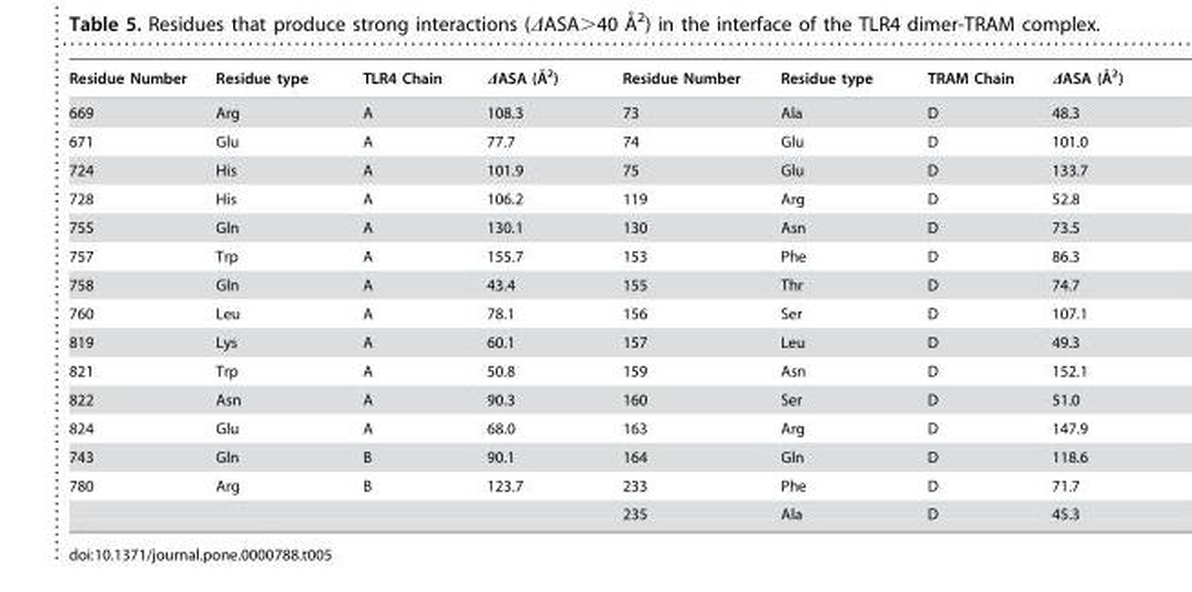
<table><thead><tr><td>Residue Number</td><td>Residue type</td><td>TLR4 Chain</td><td>DASA (A˚ 2)</td><td>Residue Number</td><td>Residue type</td><td>TRAM Chain</td><td>DASA (A˚ 2)</td></tr></thead><tbody><tr><td>669</td><td>Arg</td><td>A</td><td>108.3</td><td>73</td><td>Ala</td><td>D</td><td>48.3</td></tr><tr><td>671</td><td>Glu</td><td>A</td><td>77.7</td><td>74</td><td>Glu</td><td>D</td><td>101.0</td></tr><tr><td>724</td><td>His</td><td>A</td><td>101.9</td><td>75</td><td>Glu</td><td>D</td><td>133.7</td></tr><tr><td>728</td><td>His</td><td>A</td><td>106.2</td><td>119</td><td>Arg</td><td>D</td><td>52.8</td></tr><tr><td>755</td><td>Gln</td><td>A</td><td>130.1</td><td>130</td><td>Asn</td><td>D</td><td>73.5</td></tr><tr><td>757</td><td>Trp</td><td>A</td><td>155.7</td><td>153</td><td>Phe</td><td>D</td><td>86.3</td></tr><tr><td>758</td><td>Gln</td><td>A</td><td>43.4</td><td>155</td><td>Thr</td><td>D</td><td>74.7</td></tr><tr><td>760</td><td>Leu</td><td>A</td><td>78.1</td><td>156</td><td>Ser</td><td>D</td><td>107.1</td></tr><tr><td>819</td><td>Lys</td><td>A</td><td>60.1</td><td>157</td><td>Leu</td><td>D</td><td>49.3</td></tr><tr><td>821</td><td>Trp</td><td>A</td><td>50.8</td><td>159</td><td>Asn</td><td>D</td><td>152.1</td></tr><tr><td>822</td><td>Asn</td><td>A</td><td>90.3</td><td>160</td><td>Ser</td><td>D</td><td>51.0</td></tr><tr><td>824</td><td>Glu</td><td>A</td><td>68.0</td><td>163</td><td>Arg</td><td>D</td><td>147.9</td></tr><tr><td>743</td><td>Gln</td><td>B</td><td>90.1</td><td>164</td><td>Gln</td><td>D</td><td>118.6</td></tr><tr><td rowspan="2">780</td><td>Arg</td><td>B</td><td>123.7</td><td>233</td><td>Phe</td><td>D</td><td>71.7</td></tr><tr><td></td><td></td><td></td><td>235</td><td>Ala</td><td>D</td><td>45.3</td></tr></tbody></table>